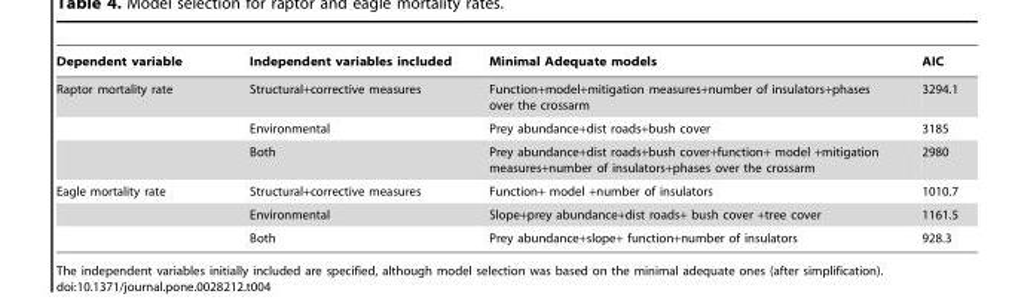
<table><thead><tr><td>Dependent variable</td><td>Independent variables included</td><td>Minimal Adequate models</td><td>AIC</td></tr></thead><tbody><tr><td rowspan="3">Raptor mortality rate</td><td>Structural+corrective measures</td><td>Function+model+mitigation measures+number of insulators+phases over the crossarm</td><td>3294.1</td></tr><tr><td>Environmental</td><td>Prey abundance+dist roads+bush cover</td><td>3185</td></tr><tr><td>Both</td><td>Prey abundance+dist roads+bush cover+function+ model +mitigation measures+number of insulators+phases over the crossarm</td><td>2980</td></tr><tr><td rowspan="3">Eagle mortality rate</td><td>Structural+corrective measures</td><td>Function+ model +number of insulators</td><td>1010.7</td></tr><tr><td>Environmental</td><td>Slope+prey abundance+dist roads+ bush cover +tree cover</td><td>1161.5</td></tr><tr><td>Both</td><td>Prey abundance+slope+ function+number of insulators</td><td>928.3</td></tr></tbody></table>